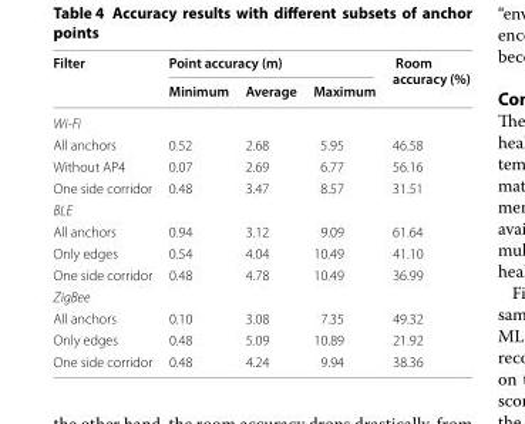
<table><thead><tr><td rowspan="2">Filter</td><td colspan="3">Point accuracy (m)</td><td rowspan="2">Room accuracy (%)</td></tr><tr><td>Minimum</td><td>Average</td><td>Maximum</td></tr></thead><tbody><tr><td colspan="5">Wi-Fi</td></tr><tr><td>All anchors</td><td>0.52</td><td>2.68</td><td>5.95</td><td>46.58</td></tr><tr><td>Without AP4</td><td>0.07</td><td>2.69</td><td>6.77</td><td>56.16</td></tr><tr><td>One side corridor</td><td>0.48</td><td>3.47</td><td>8.57</td><td>31.51</td></tr><tr><td colspan="5">BLE</td></tr><tr><td>All anchors</td><td>0.94</td><td>3.12</td><td>9.09</td><td>61.64</td></tr><tr><td>Only edges</td><td>0.54</td><td>4.04</td><td>10.49</td><td>41.10</td></tr><tr><td>One side corridor</td><td>0.48</td><td>4.78</td><td>10.49</td><td>36.99</td></tr><tr><td colspan="5">ZigBee</td></tr><tr><td>All anchors</td><td>0.10</td><td>3.08</td><td>7.35</td><td>49.32</td></tr><tr><td>Only edges</td><td>0.48</td><td>5.09</td><td>10.89</td><td>21.92</td></tr><tr><td>One side corridor</td><td>0.48</td><td>4.24</td><td>9.94</td><td>38.36</td></tr></tbody></table>